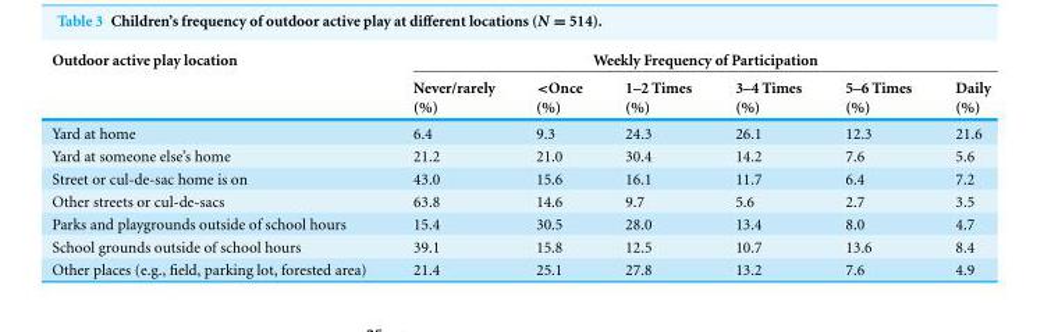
<table><thead><tr><td rowspan="2">Outdoor active play location</td><td colspan="6">Weekly Frequency of Participation</td></tr><tr><td>Never/rarely (%)</td><td>&lt;Once (%)</td><td>1–2 Times (%)</td><td>3–4 Times (%)</td><td>5–6 Times (%)</td><td>Daily (%)</td></tr></thead><tbody><tr><td>Yard at home</td><td>6.4</td><td>9.3</td><td>24.3</td><td>26.1</td><td>12.3</td><td>21.6</td></tr><tr><td>Yard at someone else’s home</td><td>21.2</td><td>21.0</td><td>30.4</td><td>14.2</td><td>7.6</td><td>5.6</td></tr><tr><td>Street or cul-de-sac home is on</td><td>43.0</td><td>15.6</td><td>16.1</td><td>11.7</td><td>6.4</td><td>7.2</td></tr><tr><td>Other streets or cul-de-sacs</td><td>63.8</td><td>14.6</td><td>9.7</td><td>5.6</td><td>2.7</td><td>3.5</td></tr><tr><td>Parks and playgrounds outside of school hours</td><td>15.4</td><td>30.5</td><td>28.0</td><td>13.4</td><td>8.0</td><td>4.7</td></tr><tr><td>School grounds outside of school hours</td><td>39.1</td><td>15.8</td><td>12.5</td><td>10.7</td><td>13.6</td><td>8.4</td></tr><tr><td>Other places (e.g., field, parking lot, forested area)</td><td>21.4</td><td>25.1</td><td>27.8</td><td>13.2</td><td>7.6</td><td>4.9</td></tr></tbody></table>